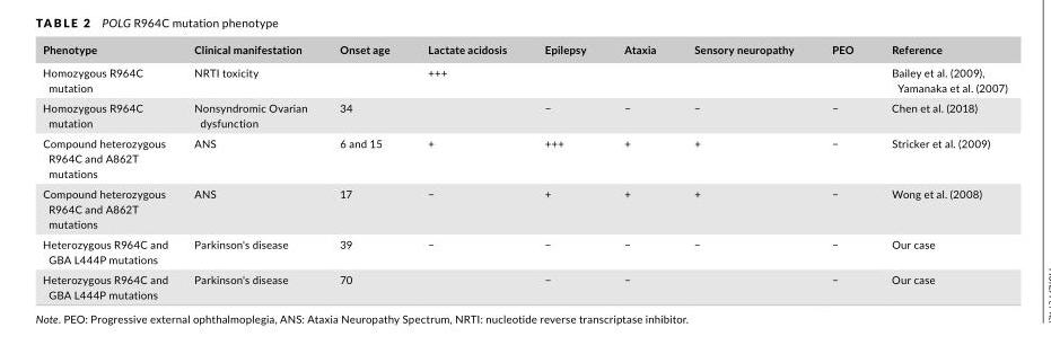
<table><thead><tr><td>Phenotype</td><td>Clinical manifestation</td><td>Onset age</td><td>Lactate acidosis</td><td>Epilepsy</td><td>Ataxia</td><td>Sensory neuropathy</td><td>PEO</td><td>Reference</td></tr></thead><tbody><tr><td>Homozygous R964C mutation</td><td>NRTI toxicity</td><td></td><td>+++</td><td></td><td></td><td></td><td></td><td>Bailey et al. (2009), Yamanaka et al. (2007)</td></tr><tr><td>Homozygous R964C mutation</td><td>Nonsyndromic Ovarian dysfunction</td><td>34</td><td></td><td>−</td><td>−</td><td>−</td><td>−</td><td>Chen et al. (2018)</td></tr><tr><td>Compound heterozygous R964C and A862T mutations</td><td>ANS</td><td>6 and 15</td><td>+</td><td>+++</td><td>+</td><td>+</td><td>−</td><td>Stricker et al. (2009)</td></tr><tr><td>Compound heterozygous R964C and A862T mutations</td><td>ANS</td><td>17</td><td>−</td><td>+</td><td>+</td><td>+</td><td>−</td><td>Wong et al. (2008)</td></tr><tr><td>Heterozygous R964C and GBA L444P mutations</td><td>Parkinson&#x27;s disease</td><td>39</td><td>−</td><td>−</td><td>−</td><td>−</td><td>−</td><td>Our case</td></tr><tr><td>Heterozygous R964C and GBA L444P mutations</td><td>Parkinson&#x27;s disease</td><td>70</td><td></td><td>−</td><td>−</td><td></td><td>−</td><td>Our case</td></tr></tbody></table>